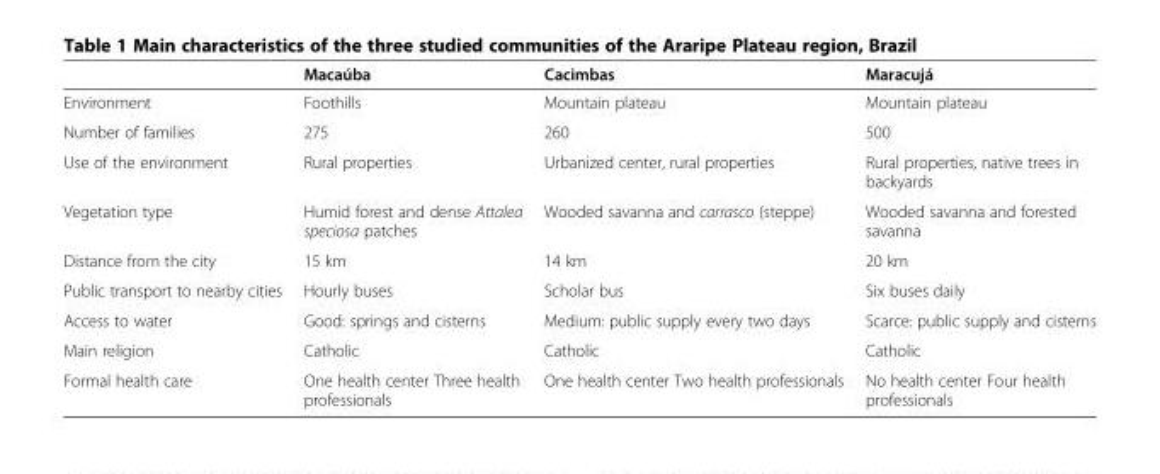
<table><thead><tr><td></td><td>Macaúba</td><td>Cacimbas</td><td>Maracujá</td></tr></thead><tbody><tr><td>Environment</td><td>Foothills</td><td>Mountain plateau</td><td>Mountain plateau</td></tr><tr><td>Number of families</td><td>275</td><td>260</td><td>500</td></tr><tr><td>Use of the environment</td><td>Rural properties</td><td>Urbanized center, rural properties</td><td>Rural properties, native trees in backyards</td></tr><tr><td>Vegetation type</td><td>Humid forest and dense Attalea speciosa patches</td><td>Wooded savanna and carrasco (steppe)</td><td>Wooded savanna and forested savanna</td></tr><tr><td>Distance from the city</td><td>15 km</td><td>14 km</td><td>20 km</td></tr><tr><td>Public transport to nearby cities</td><td>Hourly buses</td><td>Scholar bus</td><td>Six buses daily</td></tr><tr><td>Access to water</td><td>Good: springs and cisterns</td><td>Medium: public supply every two days</td><td>Scarce: public supply and cisterns</td></tr><tr><td>Main religion</td><td>Catholic</td><td>Catholic</td><td>Catholic</td></tr><tr><td>Formal health care</td><td>One health center Three health professionals</td><td>One health center Two health professionals</td><td>No health center Four health professionals</td></tr></tbody></table>